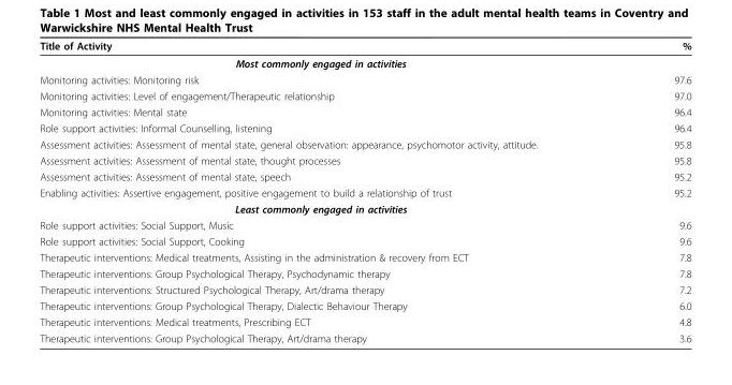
<table><thead><tr><td>Title of Activity</td><td>%</td></tr></thead><tbody><tr><td colspan="2">Most commonly engaged in activities</td></tr><tr><td>Monitoring activities: Monitoring risk</td><td>97.6</td></tr><tr><td>Monitoring activities: Level of engagement/Therapeutic relationship</td><td>97.0</td></tr><tr><td>Monitoring activities: Mental state</td><td>96.4</td></tr><tr><td>Role support activities: Informal Counselling, listening</td><td>96.4</td></tr><tr><td>Assessment activities: Assessment of mental state, general observation: appearance, psychomotor activity, attitude.</td><td>95.8</td></tr><tr><td>Assessment activities: Assessment of mental state, thought processes</td><td>95.8</td></tr><tr><td>Assessment activities: Assessment of mental state, speech</td><td>95.2</td></tr><tr><td>Enabling activities: Assertive engagement, positive engagement to build a relationship of trust</td><td>95.2</td></tr><tr><td colspan="2">Least commonly engaged in activities</td></tr><tr><td>Role support activities: Social Support, Music</td><td>9.6</td></tr><tr><td>Role support activities: Social Support, Cooking</td><td>9.6</td></tr><tr><td>Therapeutic interventions: Medical treatments, Assisting in the administration &amp; recovery from ECT</td><td>7.8</td></tr><tr><td>Therapeutic interventions: Group Psychological Therapy, Psychodynamic therapy</td><td>7.8</td></tr><tr><td>Therapeutic interventions: Structured Psychological Therapy, Art/drama therapy</td><td>7.2</td></tr><tr><td>Therapeutic interventions: Group Psychological Therapy, Dialectic Behaviour Therapy</td><td>6.0</td></tr><tr><td>Therapeutic interventions: Medical treatments, Prescribing ECT</td><td>4.8</td></tr><tr><td>Therapeutic interventions: Group Psychological Therapy, Art/drama therapy</td><td>3.6</td></tr></tbody></table>